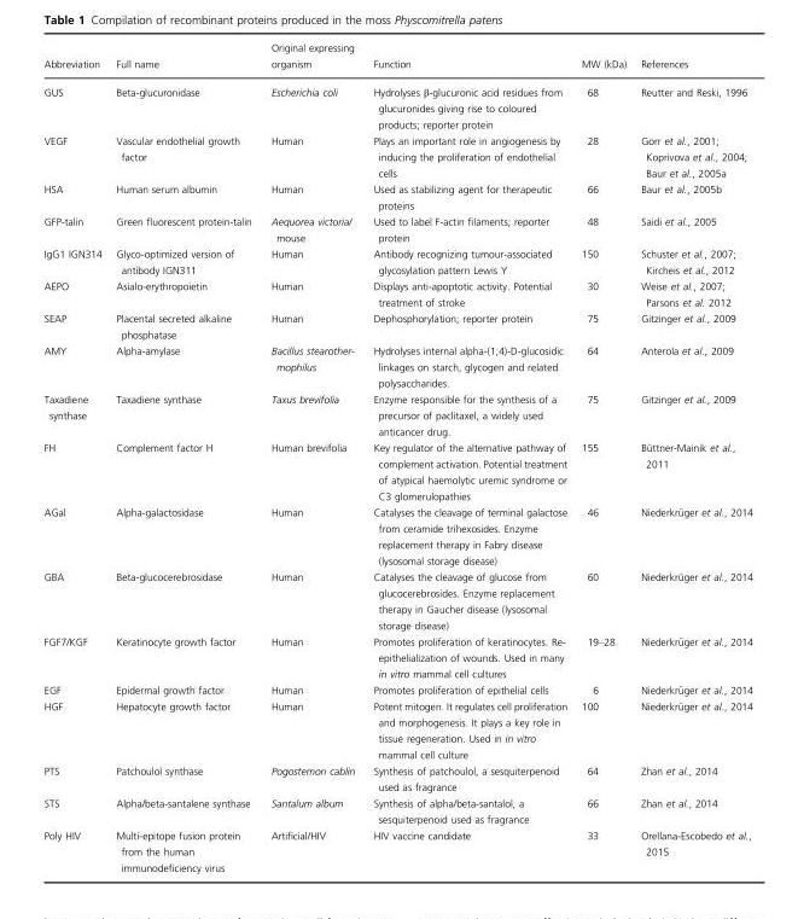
<table><thead><tr><td>Abbreviation</td><td>Full name</td><td>Original expressing organism</td><td>Function</td><td>MW (kDa)</td><td>References</td></tr></thead><tbody><tr><td>GUS</td><td>Beta-glucuronidase</td><td>Escherichia coli</td><td>Hydrolyses β-glucuronic acid residues from glucuronides giving rise to coloured products; reporter protein</td><td>68</td><td>Reutter and Reski, 1996</td></tr><tr><td>VEGF</td><td>Vascular endothelial growth factor</td><td>Human</td><td>Plays an important role in angiogenesis by inducing the proliferation of endothelial cells</td><td>28</td><td>Gorr et al., 2001; Koprivova et al., 2004; Baur et al., 2005a</td></tr><tr><td>HSA</td><td>Human serum albumin</td><td>Human</td><td>Used as stabilizing agent for therapeutic proteins</td><td>66</td><td>Baur et al., 2005b</td></tr><tr><td>GFP-talin</td><td>Green fluorescent protein-talin</td><td>Aequorea victoria/ mouse</td><td>Used to label F-actin filaments; reporter protein</td><td>48</td><td>Saidi et al., 2005</td></tr><tr><td>IgG1 IGN314</td><td>Glyco-optimized version of antibody IGN311</td><td>Human</td><td>Antibody recognizing tumour-associated glycosylation pattern Lewis Y</td><td>150</td><td>Schuster et al., 2007; Kircheis et al., 2012</td></tr><tr><td>AEPO</td><td>Asialo-erythropoietin</td><td>Human</td><td>Displays anti-apoptotic activity. Potential treatment of stroke</td><td>30</td><td>Weise et al., 2007; Parsons et al. 2012</td></tr><tr><td>SEAP</td><td>Placental secreted alkaline phosphatase</td><td>Human</td><td>Dephosphorylation; reporter protein</td><td>75</td><td>Gitzinger et al., 2009</td></tr><tr><td>AMY</td><td>Alpha-amylase</td><td>Bacillus stearother- mophilus</td><td>Hydrolyses internal alpha-(1,4)-D-glucosidic linkages on starch, glycogen and related polysaccharides.</td><td>64</td><td>Anterola et al., 2009</td></tr><tr><td>Taxadiene synthase</td><td>Taxadiene synthase</td><td>Taxus brevifolia</td><td>Enzyme responsible for the synthesis of a precursor of paclitaxel, a widely used anticancer drug.</td><td>75</td><td>Gitzinger et al., 2009</td></tr><tr><td>FH</td><td>Complement factor H</td><td>Human brevifolia</td><td>Key regulator of the alternative pathway of complement activation. Potential treatment of atypical haemolytic uremic syndrome or C3 glomerulopathies</td><td>155</td><td>B€uttner-Mainik et al., 2011</td></tr><tr><td>AGal</td><td>Alpha-galactosidase</td><td>Human</td><td>Catalyses the cleavage of terminal galactose from ceramide trihexosides. Enzyme replacement therapy in Fabry disease (lysosomal storage disease)</td><td>46</td><td>Niederkr€uger et al., 2014</td></tr><tr><td>GBA</td><td>Beta-glucocerebrosidase</td><td>Human</td><td>Catalyses the cleavage of glucose from glucocerebrosides. Enzyme replacement therapy in Gaucher disease (lysosomal storage disease)</td><td>60</td><td>Niederkr€uger et al., 2014</td></tr><tr><td>FGF7/KGF</td><td>Keratinocyte growth factor</td><td>Human</td><td>Promotes proliferation of keratinocytes. Re- epithelialization of wounds. Used in many in vitro mammal cell cultures</td><td>19–28</td><td>Niederkr€uger et al., 2014</td></tr><tr><td>EGF</td><td>Epidermal growth factor</td><td>Human</td><td>Promotes proliferation of epithelial cells</td><td>6</td><td>Niederkr€uger et al., 2014</td></tr><tr><td>HGF</td><td>Hepatocyte growth factor</td><td>Human</td><td>Potent mitogen. It regulates cell proliferation and morphogenesis. It plays a key role in tissue regeneration. Used in in vitro mammal cell culture</td><td>100</td><td>Niederkr€uger et al., 2014</td></tr><tr><td>PTS</td><td>Patchoulol synthase</td><td>Pogostemon cablin</td><td>Synthesis of patchoulol, a sesquiterpenoid used as fragrance</td><td>64</td><td>Zhan et al., 2014</td></tr><tr><td>STS</td><td>Alpha/beta-santalene synthase</td><td>Santalum album</td><td>Synthesis of alpha/beta-santalol, a sesquiterpenoid used as fragrance</td><td>66</td><td>Zhan et al., 2014</td></tr><tr><td>Poly HIV</td><td>Multi-epitope fusion protein from the human immunodeficiency virus</td><td>Artificial/HIV</td><td>HIV vaccine candidate</td><td>33</td><td>Orellana-Escobedo et al., 2015</td></tr></tbody></table>